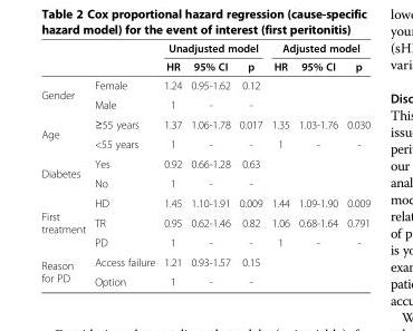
<table><thead><tr><td rowspan="2"></td><td rowspan="2"></td><td colspan="3">Unadjusted model</td><td colspan="3">Adjusted model</td></tr><tr><td>HR</td><td>95% CI</td><td>p</td><td>HR</td><td>95% CI</td><td>p</td></tr></thead><tbody><tr><td rowspan="2">Gender</td><td>Female</td><td>1.24</td><td>0.95-1.62</td><td>0.12</td><td rowspan="2" colspan="3"></td></tr><tr><td>Male</td><td>1</td><td>-</td><td>-</td></tr><tr><td rowspan="2">Age</td><td>≥55 years</td><td>1.37</td><td>1.06-1.78</td><td>0.017</td><td>1.35</td><td>1.03-1.76</td><td>0.030</td></tr><tr><td>&lt;55 years</td><td>1</td><td>-</td><td>-</td><td>1</td><td>-</td><td>-</td></tr><tr><td rowspan="2">Diabetes</td><td>Yes</td><td>0.92</td><td>0.66-1.28</td><td>0.63</td><td rowspan="2" colspan="3"></td></tr><tr><td>No</td><td>1</td><td>-</td><td>-</td></tr><tr><td rowspan="3">First treatment</td><td>HD</td><td>1.45</td><td>1.10-1.91</td><td>0.009</td><td>1.44</td><td>1.09-1.90</td><td>0.009</td></tr><tr><td>TR</td><td>0.95</td><td>0.62-1.46</td><td>0.82</td><td>1.06</td><td>0.68-1.64</td><td>0.791</td></tr><tr><td>PD</td><td>1</td><td>-</td><td>-</td><td>1</td><td>-</td><td>-</td></tr><tr><td rowspan="2">Reason for PD</td><td>Access failure</td><td>1.21</td><td>0.93-1.57</td><td>0.15</td><td rowspan="2" colspan="3"></td></tr><tr><td>Option</td><td>1</td><td>-</td><td>-</td></tr></tbody></table>